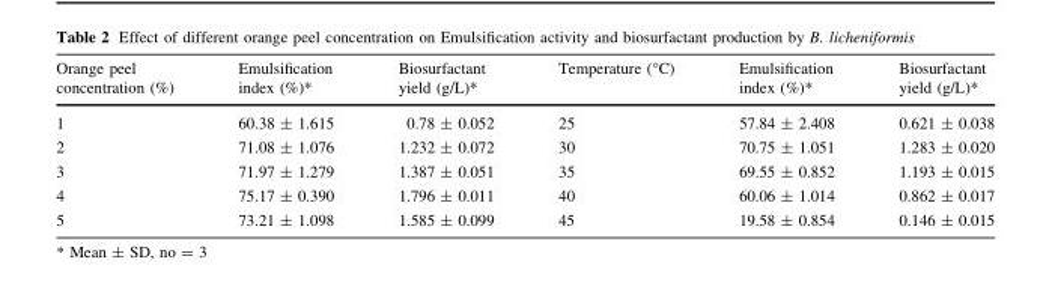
<table><thead><tr><td>Orange peel concentration (%)</td><td>Emulsification index (%)*</td><td>Biosurfactant yield (g/L)*</td><td>Temperature (°C)</td><td>Emulsification index (%)*</td><td>Biosurfactant yield (g/L)*</td></tr></thead><tbody><tr><td>1</td><td>60.38 ± 1.615</td><td>0.78 ± 0.052</td><td>25</td><td>57.84 ± 2.408</td><td>0.621 ± 0.038</td></tr><tr><td>2</td><td>71.08 ± 1.076</td><td>1.232 ± 0.072</td><td>30</td><td>70.75 ± 1.051</td><td>1.283 ± 0.020</td></tr><tr><td>3</td><td>71.97 ± 1.279</td><td>1.387 ± 0.051</td><td>35</td><td>69.55 ± 0.852</td><td>1.193 ± 0.015</td></tr><tr><td>4</td><td>75.17 ± 0.390</td><td>1.796 ± 0.011</td><td>40</td><td>60.06 ± 1.014</td><td>0.862 ± 0.017</td></tr><tr><td>5</td><td>73.21 ± 1.098</td><td>1.585 ± 0.099</td><td>45</td><td>19.58 ± 0.854</td><td>0.146 ± 0.015</td></tr></tbody></table>